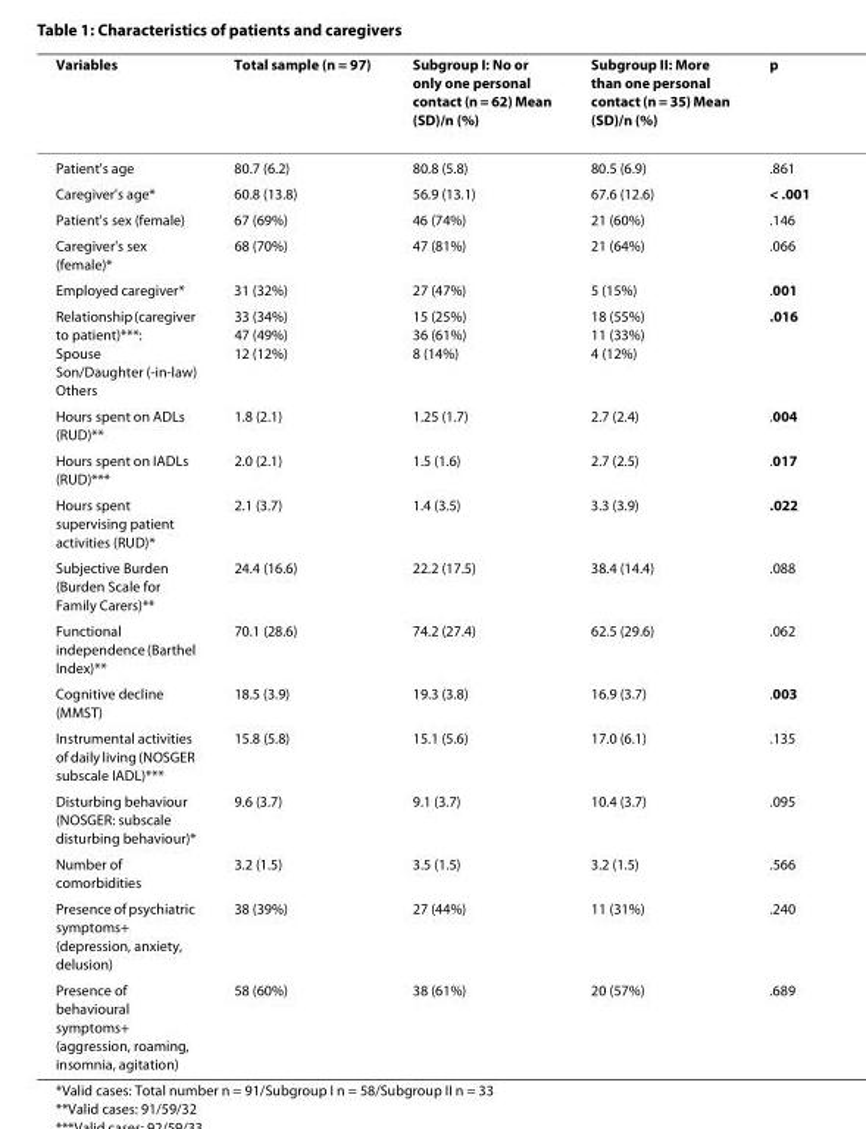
<table><thead><tr><td>Variables</td><td>Total sample (n = 97)</td><td>Subgroup I: No or only one personal contact (n = 62) Mean (SD)/n (%)</td><td>Subgroup II: More than one personal contact (n = 35) Mean (SD)/n (%)</td><td>p</td></tr></thead><tbody><tr><td>Patient&#x27;s age</td><td>80.7 (6.2)</td><td>80.8 (5.8)</td><td>80.5 (6.9)</td><td>.861</td></tr><tr><td>Caregiver&#x27;s age*</td><td>60.8 (13.8)</td><td>56.9 (13.1)</td><td>67.6 (12.6)</td><td>&lt; .001</td></tr><tr><td>Patient&#x27;s sex (female)</td><td>67 (69%)</td><td>46 (74%)</td><td>21 (60%)</td><td>.146</td></tr><tr><td>Caregiver&#x27;s sex (female)*</td><td>68 (70%)</td><td>47 (81%)</td><td>21 (64%)</td><td>.066</td></tr><tr><td>Employed caregiver*</td><td>31 (32%)</td><td>27 (47%)</td><td>5 (15%)</td><td>.001</td></tr><tr><td>Relationship (caregiver to patient)***: Spouse Son/Daughter (-in-law) Others</td><td>33 (34%) 47 (49%) 12 (12%)</td><td>15 (25%) 36 (61%) 8 (14%)</td><td>18 (55%) 11 (33%) 4 (12%)</td><td>.016</td></tr><tr><td>Hours spent on ADLs (RUD)**</td><td>1.8 (2.1)</td><td>1.25 (1.7)</td><td>2.7 (2.4)</td><td>.004</td></tr><tr><td>Hours spent on IADLs (RUD)***</td><td>2.0 (2.1)</td><td>1.5 (1.6)</td><td>2.7 (2.5)</td><td>.017</td></tr><tr><td>Hours spent supervising patient activities (RUD)*</td><td>2.1 (3.7)</td><td>1.4 (3.5)</td><td>3.3 (3.9)</td><td>.022</td></tr><tr><td>Subjective Burden (Burden Scale for Family Carers)**</td><td>24.4 (16.6)</td><td>22.2 (17.5)</td><td>38.4 (14.4)</td><td>.088</td></tr><tr><td>Functional independence (Barthel Index)**</td><td>70.1 (28.6)</td><td>74.2 (27.4)</td><td>62.5 (29.6)</td><td>.062</td></tr><tr><td>Cognitive decline (MMST)</td><td>18.5 (3.9)</td><td>19.3 (3.8)</td><td>16.9 (3.7)</td><td>.003</td></tr><tr><td>Instrumental activities of daily living (NOSGER subscale IADL)***</td><td>15.8 (5.8)</td><td>15.1 (5.6)</td><td>17.0 (6.1)</td><td>.135</td></tr><tr><td>Disturbing behaviour (NOSGER: subscale disturbing behaviour)*</td><td>9.6 (3.7)</td><td>9.1 (3.7)</td><td>10.4 (3.7)</td><td>.095</td></tr><tr><td>Number of comorbidities</td><td>3.2 (1.5)</td><td>3.5 (1.5)</td><td>3.2 (1.5)</td><td>.566</td></tr><tr><td>Presence of psychiatric symptoms+ (depression, anxiety, delusion)</td><td>38 (39%)</td><td>27 (44%)</td><td>11 (31%)</td><td>.240</td></tr><tr><td>Presence of behavioural symptoms+ (aggression, roaming, insomnia, agitation)</td><td>58 (60%)</td><td>38 (61%)</td><td>20 (57%)</td><td>.689</td></tr></tbody></table>